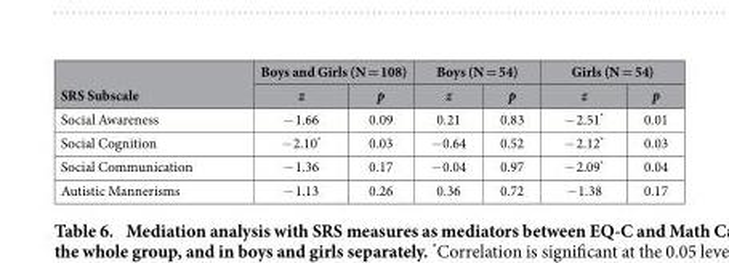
<table><thead><tr><td rowspan="2">SRS Subscale</td><td colspan="2">Boys and Girls (N = 108)</td><td colspan="2">Boys (N = 54)</td><td colspan="2">Girls (N = 54)</td></tr><tr><td>z</td><td>p</td><td>z</td><td>p</td><td>z</td><td>p</td></tr></thead><tbody><tr><td>Social Awareness</td><td>− 1.66</td><td>0.09</td><td>0.21</td><td>0.83</td><td>− 2.51*</td><td>0.01</td></tr><tr><td>Social Cognition</td><td>− 2.10*</td><td>0.03</td><td>− 0.64</td><td>0.52</td><td>− 2.12*</td><td>0.03</td></tr><tr><td>Social Communication</td><td>− 1.36</td><td>0.17</td><td>− 0.04</td><td>0.97</td><td>− 2.09*</td><td>0.04</td></tr><tr><td>Autistic Mannerisms</td><td>− 1.13</td><td>0.26</td><td>0.36</td><td>0.72</td><td>− 1.38</td><td>0.17</td></tr></tbody></table>